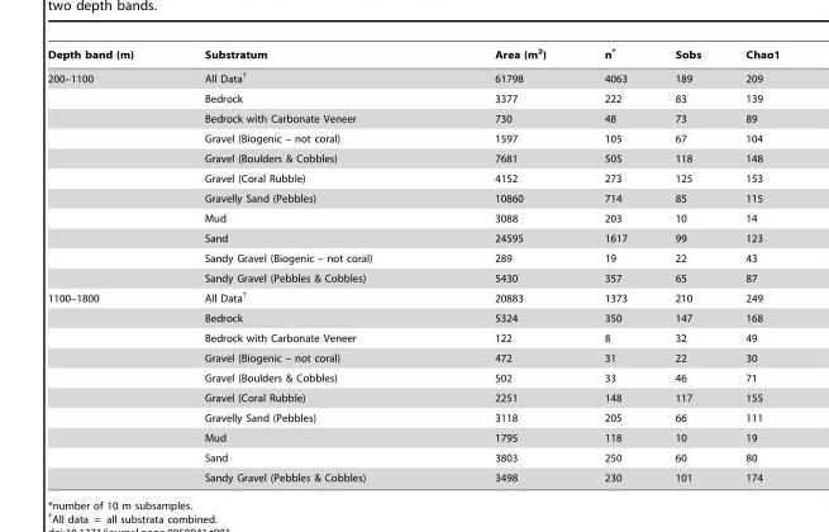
<table><thead><tr><td>Depth band (m)</td><td>Substratum</td><td>Area (m<sup>2</sup>)</td><td>n*</td><td>Sobs</td><td>Chao1</td></tr></thead><tbody><tr><td rowspan="11">200–1100</td><td>All Data†</td><td>61798</td><td>4063</td><td>189</td><td>209</td></tr><tr><td>Bedrock</td><td>3377</td><td>222</td><td>83</td><td>139</td></tr><tr><td>Bedrock with Carbonate Veneer</td><td>730</td><td>48</td><td>73</td><td>89</td></tr><tr><td>Gravel (Biogenic – not coral)</td><td>1597</td><td>105</td><td>67</td><td>104</td></tr><tr><td>Gravel (Boulders &amp; Cobbles)</td><td>7681</td><td>505</td><td>118</td><td>148</td></tr><tr><td>Gravel (Coral Rubble)</td><td>4152</td><td>273</td><td>125</td><td>153</td></tr><tr><td>Gravelly Sand (Pebbles)</td><td>10860</td><td>714</td><td>85</td><td>115</td></tr><tr><td>Mud</td><td>3088</td><td>203</td><td>10</td><td>14</td></tr><tr><td>Sand</td><td>24595</td><td>1617</td><td>99</td><td>123</td></tr><tr><td>Sandy Gravel (Biogenic – not coral)</td><td>289</td><td>19</td><td>22</td><td>43</td></tr><tr><td>Sandy Gravel (Pebbles &amp; Cobbles)</td><td>5430</td><td>357</td><td>65</td><td>87</td></tr><tr><td rowspan="10">1100–1800</td><td>All Data†</td><td>20883</td><td>1373</td><td>210</td><td>249</td></tr><tr><td>Bedrock</td><td>5324</td><td>350</td><td>147</td><td>168</td></tr><tr><td>Bedrock with Carbonate Veneer</td><td>122</td><td>8</td><td>32</td><td>49</td></tr><tr><td>Gravel (Biogenic – not coral)</td><td>472</td><td>31</td><td>22</td><td>30</td></tr><tr><td>Gravel (Boulders &amp; Cobbles)</td><td>502</td><td>33</td><td>46</td><td>71</td></tr><tr><td>Gravel (Coral Rubble)</td><td>2251</td><td>148</td><td>117</td><td>155</td></tr><tr><td>Gravelly Sand (Pebbles)</td><td>3118</td><td>205</td><td>66</td><td>111</td></tr><tr><td>Mud</td><td>1795</td><td>118</td><td>10</td><td>19</td></tr><tr><td>Sand</td><td>3803</td><td>250</td><td>60</td><td>80</td></tr><tr><td>Sandy Gravel (Pebbles &amp; Cobbles)</td><td>3498</td><td>230</td><td>101</td><td>174</td></tr></tbody></table>